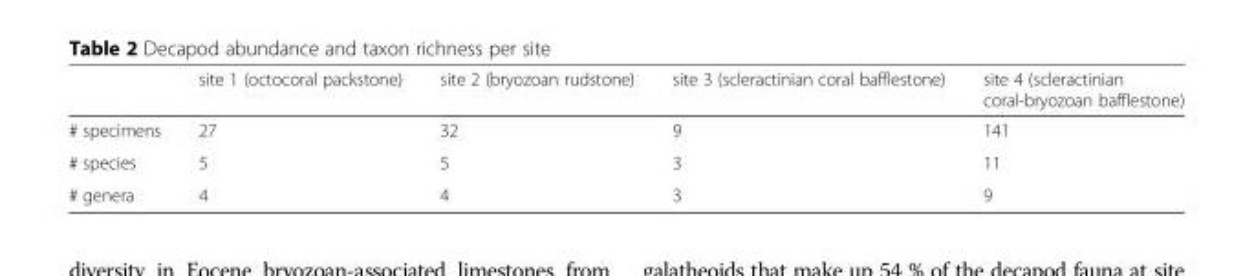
<table><thead><tr><td></td><td>site 1 (octocoral packstone)</td><td>site 2 (bryozoan rudstone)</td><td>site 3 (scleractinian coral bafflestone)</td><td>site 4 (scleractinian coral-bryozoan bafflestone)</td></tr></thead><tbody><tr><td># specimens</td><td>27</td><td>32</td><td>9</td><td>141</td></tr><tr><td># species</td><td>5</td><td>5</td><td>3</td><td>11</td></tr><tr><td># genera</td><td>4</td><td>4</td><td>3</td><td>9</td></tr></tbody></table>